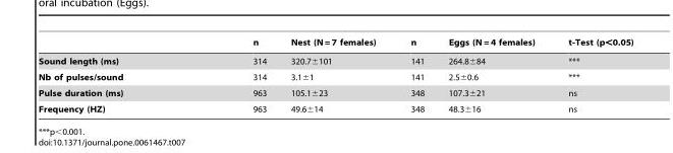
<table><thead><tr><td></td><td>n</td><td>Nest (N = 7 females)</td><td>n</td><td>Eggs (N = 4 females)</td><td>t-Test (p&lt;0.05)</td></tr></thead><tbody><tr><td>Sound length (ms)</td><td>314</td><td>320.7±101</td><td>141</td><td>264.8±84</td><td>***</td></tr><tr><td>Nb of pulses/sound</td><td>314</td><td>3.1±1</td><td>141</td><td>2.5±0.6</td><td>***</td></tr><tr><td>Pulse duration (ms)</td><td>963</td><td>105.1±23</td><td>348</td><td>107.3±21</td><td>ns</td></tr><tr><td>Frequency (HZ)</td><td>963</td><td>49.6±14</td><td>348</td><td>48.3±16</td><td>ns</td></tr></tbody></table>